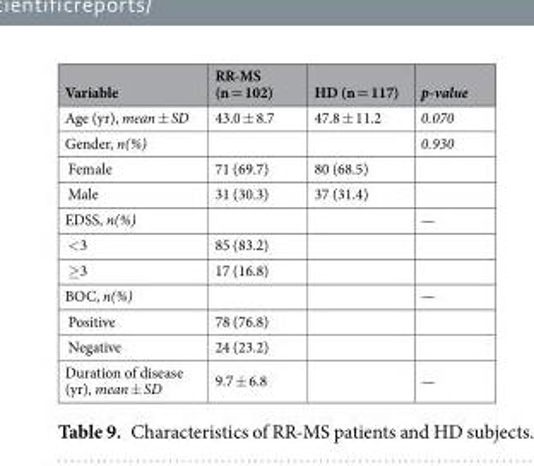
<table><thead><tr><td>Variable</td><td>RR-MS (n = 102)</td><td>HD (n = 117)</td><td>p-value</td></tr></thead><tbody><tr><td>Age (yr), mean ± SD</td><td>43.0 ± 8.7</td><td>47.8 ± 11.2</td><td>0.070</td></tr><tr><td>Gender, n(%)</td><td></td><td></td><td>0.930</td></tr><tr><td>Female</td><td>71 (69.7)</td><td>80 (68.5)</td><td></td></tr><tr><td>Male</td><td>31 (30.3)</td><td>37 (31.4)</td><td></td></tr><tr><td>EDSS, n(%)</td><td></td><td></td><td>—</td></tr><tr><td>&lt;3</td><td>85 (83.2)</td><td></td><td></td></tr><tr><td>≥3</td><td>17 (16.8)</td><td></td><td></td></tr><tr><td>BOC, n(%)</td><td></td><td></td><td>—</td></tr><tr><td>Positive</td><td>78 (76.8)</td><td></td><td></td></tr><tr><td>Negative</td><td>24 (23.2)</td><td></td><td></td></tr><tr><td>Duration of disease (yr), mean ± SD</td><td>9.7 ± 6.8</td><td></td><td>—</td></tr></tbody></table>